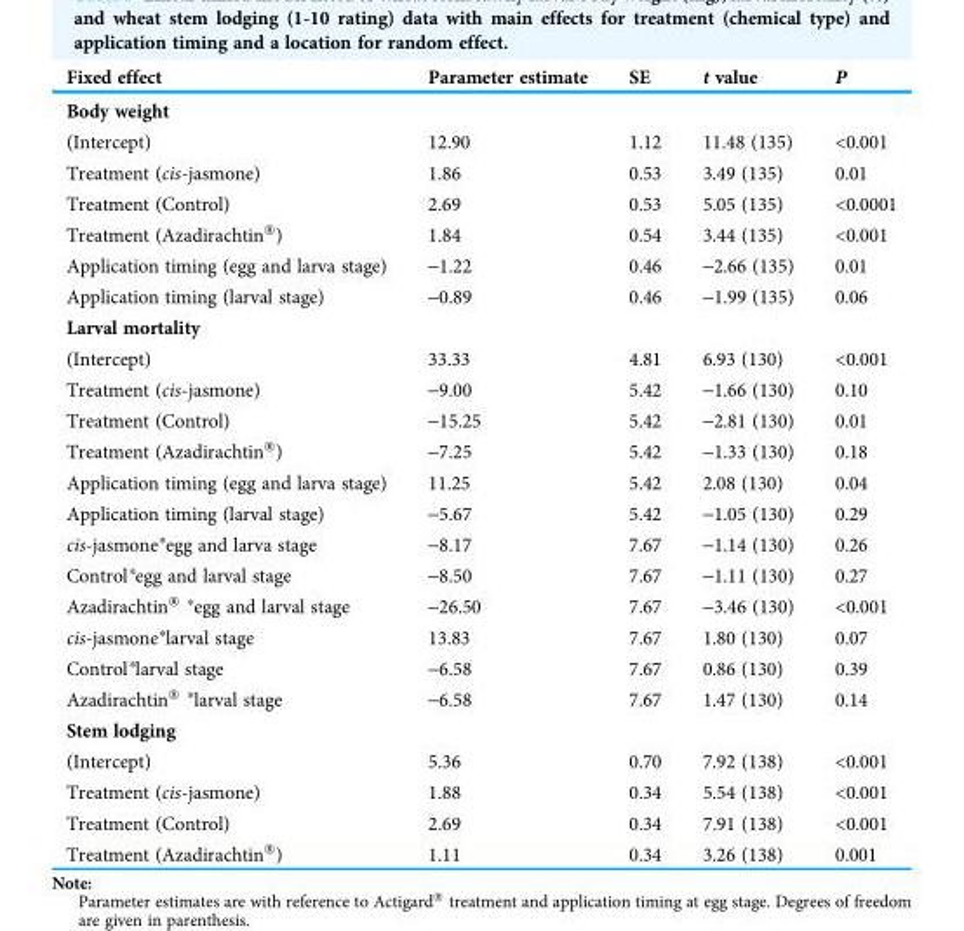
<table><thead><tr><td>Fixed effect</td><td>Parameter estimate</td><td>SE</td><td>t value</td><td>P</td></tr></thead><tbody><tr><td colspan="5">Body weight</td></tr><tr><td>(Intercept)</td><td>12.90</td><td>1.12</td><td>11.48 (135)</td><td>&lt;0.001</td></tr><tr><td>Treatment (cis-jasmone)</td><td>1.86</td><td>0.53</td><td>3.49 (135)</td><td>0.01</td></tr><tr><td>Treatment (Control)</td><td>2.69</td><td>0.53</td><td>5.05 (135)</td><td>&lt;0.0001</td></tr><tr><td>Treatment (Azadirachtin<sup>®</sup>)</td><td>1.84</td><td>0.54</td><td>3.44 (135)</td><td>&lt;0.001</td></tr><tr><td>Application timing (egg and larva stage)</td><td>-1.22</td><td>0.46</td><td>-2.66 (135)</td><td>0.01</td></tr><tr><td>Application timing (larval stage)</td><td>-0.89</td><td>0.46</td><td>-1.99 (135)</td><td>0.06</td></tr><tr><td colspan="5">Larval mortality</td></tr><tr><td>(Intercept)</td><td>33.33</td><td>4.81</td><td>6.93 (130)</td><td>&lt;0.001</td></tr><tr><td>Treatment (cis-jasmone)</td><td>-9.00</td><td>5.42</td><td>-1.66 (130)</td><td>0.10</td></tr><tr><td>Treatment (Control)</td><td>-15.25</td><td>5.42</td><td>-2.81 (130)</td><td>0.01</td></tr><tr><td>Treatment (Azadirachtin<sup>®</sup>)</td><td>-7.25</td><td>5.42</td><td>-1.33 (130)</td><td>0.18</td></tr><tr><td>Application timing (egg and larva stage)</td><td>11.25</td><td>5.42</td><td>2.08 (130)</td><td>0.04</td></tr><tr><td>Application timing (larval stage)</td><td>-5.67</td><td>5.42</td><td>-1.05 (130)</td><td>0.29</td></tr><tr><td>cis-jasmone*egg and larva stage</td><td>-8.17</td><td>7.67</td><td>-1.14 (130)</td><td>0.26</td></tr><tr><td>Control*egg and larval stage</td><td>-8.50</td><td>7.67</td><td>-1.11 (130)</td><td>0.27</td></tr><tr><td>Azadirachtin<sup>®</sup> *egg and larval stage</td><td>-26.50</td><td>7.67</td><td>-3.46 (130)</td><td>&lt;0.001</td></tr><tr><td>cis-jasmone*larval stage</td><td>13.83</td><td>7.67</td><td>1.80 (130)</td><td>0.07</td></tr><tr><td>Control*larval stage</td><td>-6.58</td><td>7.67</td><td>0.86 (130)</td><td>0.39</td></tr><tr><td>Azadirachtin<sup>®</sup> *larval stage</td><td>-6.58</td><td>7.67</td><td>1.47 (130)</td><td>0.14</td></tr><tr><td colspan="5">Stem lodging</td></tr><tr><td>(Intercept)</td><td>5.36</td><td>0.70</td><td>7.92 (138)</td><td>&lt;0.001</td></tr><tr><td>Treatment (cis-jasmone)</td><td>1.88</td><td>0.34</td><td>5.54 (138)</td><td>&lt;0.001</td></tr><tr><td>Treatment (Control)</td><td>2.69</td><td>0.34</td><td>7.91 (138)</td><td>&lt;0.001</td></tr><tr><td>Treatment (Azadirachtin<sup>®</sup>)</td><td>1.11</td><td>0.34</td><td>3.26 (138)</td><td>0.001</td></tr></tbody></table>